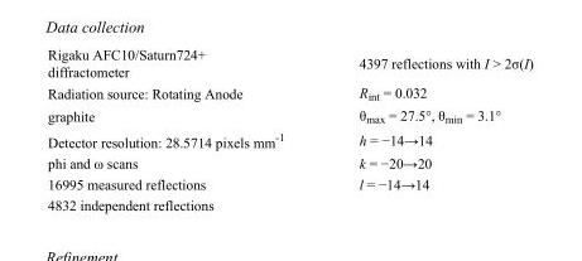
<table><tbody><tr><td>Rigaku AFC10/Saturn724+ diffractometer</td><td>4397 reflections with I &gt; 2σ(I)</td></tr><tr><td>Radiation source: Rotating Anode</td><td>R<sub>int</sub> = 0.032</td></tr><tr><td>graphite</td><td>θ<sub>max</sub> = 27.5°, θ<sub>min</sub> = 3.1°</td></tr><tr><td>Detector resolution: 28.5714 pixels mm<sup>-1</sup></td><td>h = −14→14</td></tr><tr><td>phi and ω scans</td><td>k = −20→20</td></tr><tr><td>16995 measured reflections</td><td>l = −14→14</td></tr><tr><td>4832 independent reflections</td><td></td></tr></tbody></table>